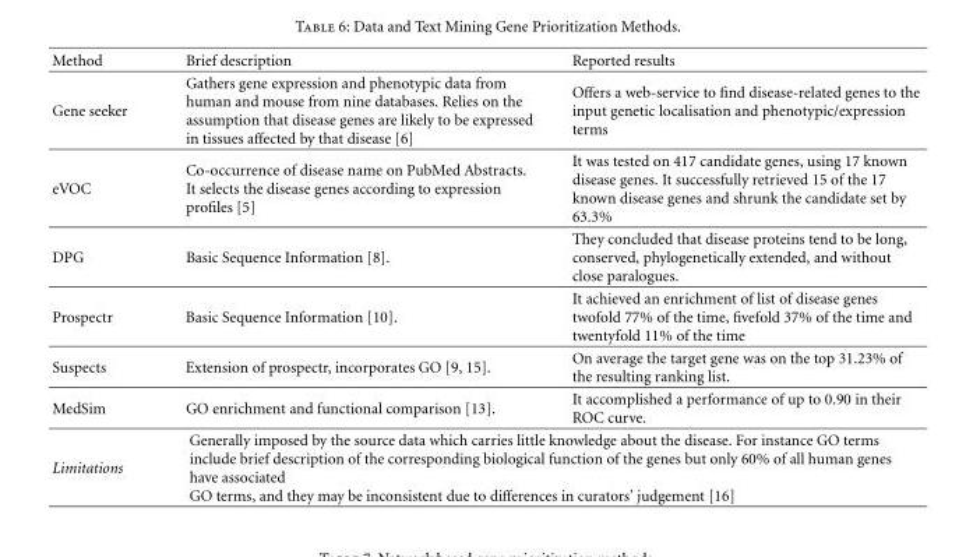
<table><thead><tr><td>Method</td><td>Brief description</td><td>Reported results</td></tr></thead><tbody><tr><td>Gene seeker</td><td>Gathers gene expression and phenotypic data from human and mouse from nine databases. Relies on the assumption that disease genes are likely to be expressed in tissues affected by that disease [6]</td><td>Offers a web-service to find disease-related genes to the input genetic localisation and phenotypic/expression terms</td></tr><tr><td>eVOC</td><td>Co-occurrence of disease name on PubMed Abstracts. It selects the disease genes according to expression profiles [5]</td><td>It was tested on 417 candidate genes, using 17 known disease genes. It successfully retrieved 15 of the 17 known disease genes and shrunk the candidate set by 63.3%</td></tr><tr><td>DPG</td><td>Basic Sequence Information [8].</td><td>They concluded that disease proteins tend to be long, conserved, phylogenetically extended, and without close paralogues.</td></tr><tr><td>Prospectr</td><td>Basic Sequence Information [10].</td><td>It achieved an enrichment of list of disease genes twofold 77% of the time, fivefold 37% of the time and twentyfold 11% of the time</td></tr><tr><td>Suspects</td><td>Extension of prospectr, incorporates GO [9, 15].</td><td>On average the target gene was on the top 31.23% of the resulting ranking list.</td></tr><tr><td>MedSim</td><td>GO enrichment and functional comparison [13].</td><td>It accomplished a performance of up to 0.90 in their ROC curve.</td></tr><tr><td>Limitations</td><td colspan="2">Generally imposed by the source data which carries little knowledge about the disease. For instance GO terms include brief description of the corresponding biological function of the genes but only 60% of all human genes have associated GO terms, and they may be inconsistent due to differences in curators’ judgement [16]</td></tr></tbody></table>